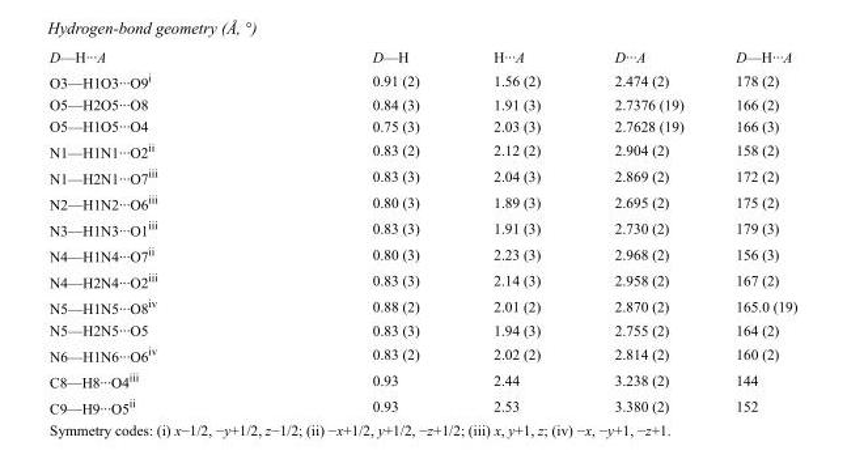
<table><tbody><tr><td>D—H···A</td><td>D—H</td><td>H···A</td><td>D···A</td><td>D—H···A</td></tr><tr><td>O3—H1O3···O9<sup>i</sup></td><td>0.91 (2)</td><td>1.56 (2)</td><td>2.474 (2)</td><td>178 (2)</td></tr><tr><td>O5—H2O5···O8</td><td>0.84 (3)</td><td>1.91 (3)</td><td>2.7376 (19)</td><td>166 (2)</td></tr><tr><td>O5—H1O5···O4</td><td>0.75 (3)</td><td>2.03 (3)</td><td>2.7628 (19)</td><td>166 (3)</td></tr><tr><td>N1—H1N1···O2<sup>ii</sup></td><td>0.83 (2)</td><td>2.12 (2)</td><td>2.904 (2)</td><td>158 (2)</td></tr><tr><td>N1—H2N1···O7<sup>iii</sup></td><td>0.83 (3)</td><td>2.04 (3)</td><td>2.869 (2)</td><td>172 (2)</td></tr><tr><td>N2—H1N2···O6<sup>iii</sup></td><td>0.80 (3)</td><td>1.89 (3)</td><td>2.695 (2)</td><td>175 (2)</td></tr><tr><td>N3—H1N3···O1<sup>iii</sup></td><td>0.83 (3)</td><td>1.91 (3)</td><td>2.730 (2)</td><td>179 (3)</td></tr><tr><td>N4—H1N4···O7<sup>ii</sup></td><td>0.80 (3)</td><td>2.23 (3)</td><td>2.968 (2)</td><td>156 (3)</td></tr><tr><td>N4—H2N4···O2<sup>iii</sup></td><td>0.83 (3)</td><td>2.14 (3)</td><td>2.958 (2)</td><td>167 (2)</td></tr><tr><td>N5—H1N5···O8<sup>iv</sup></td><td>0.88 (2)</td><td>2.01 (2)</td><td>2.870 (2)</td><td>165.0 (19)</td></tr><tr><td>N5—H2N5···O5</td><td>0.83 (3)</td><td>1.94 (3)</td><td>2.755 (2)</td><td>164 (2)</td></tr><tr><td>N6—H1N6···O6<sup>iv</sup></td><td>0.83 (2)</td><td>2.02 (2)</td><td>2.814 (2)</td><td>160 (2)</td></tr><tr><td>C8—H8···O4<sup>iii</sup></td><td>0.93</td><td>2.44</td><td>3.238 (2)</td><td>144</td></tr><tr><td>C9—H9···O5<sup>ii</sup></td><td>0.93</td><td>2.53</td><td>3.380 (2)</td><td>152</td></tr></tbody></table>